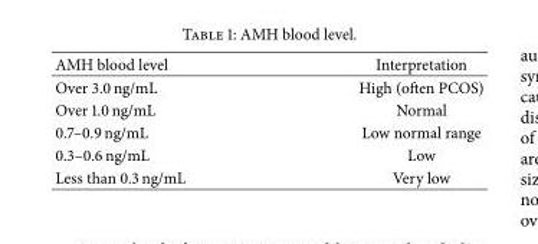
<table><thead><tr><td>AMH blood level</td><td>Interpretation</td></tr></thead><tbody><tr><td>Over 3.0 ng/mL</td><td>High (often PCOS)</td></tr><tr><td>Over 1.0 ng/mL</td><td>Normal</td></tr><tr><td>0.7–0.9 ng/mL</td><td>Low normal range</td></tr><tr><td>0.3–0.6 ng/mL</td><td>Low</td></tr><tr><td>Less than 0.3 ng/mL</td><td>Very low</td></tr></tbody></table>